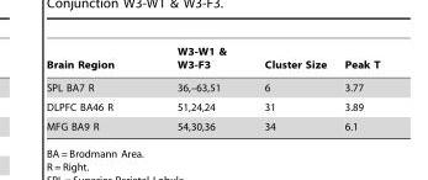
<table><thead><tr><td>Brain Region</td><td>W3-W1 &amp; W3-F3</td><td>Cluster Size</td><td>Peak T</td></tr></thead><tbody><tr><td>SPL BA7 R</td><td>36,–63,51</td><td>6</td><td>3.77</td></tr><tr><td>DLPFC BA46 R</td><td>51,24,24</td><td>31</td><td>3.89</td></tr><tr><td>MFG BA9 R</td><td>54,30,36</td><td>34</td><td>6.1</td></tr></tbody></table>